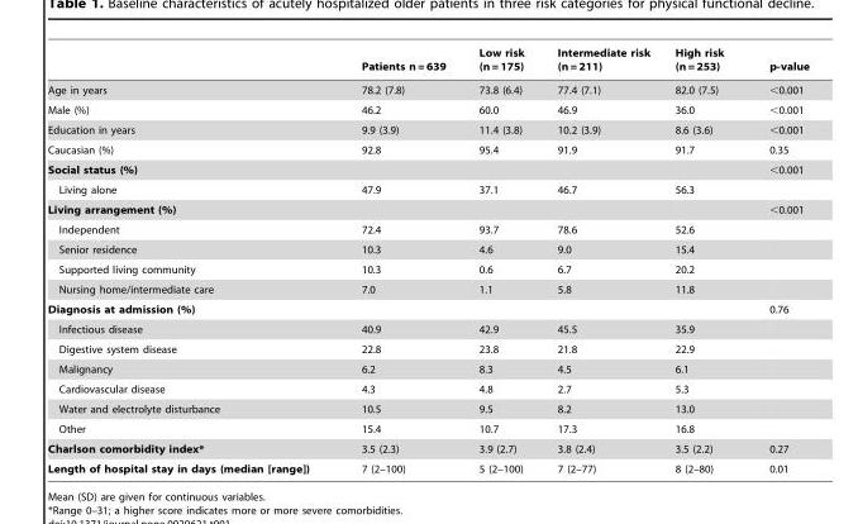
<table><thead><tr><td></td><td>Patients n = 639</td><td>Low risk (n = 175)</td><td>Intermediate risk (n = 211)</td><td>High risk (n = 253)</td><td>p-value</td></tr></thead><tbody><tr><td>Age in years</td><td>78.2 (7.8)</td><td>73.8 (6.4)</td><td>77.4 (7.1)</td><td>82.0 (7.5)</td><td>&lt;0.001</td></tr><tr><td>Male (%)</td><td>46.2</td><td>60.0</td><td>46.9</td><td>36.0</td><td>&lt;0.001</td></tr><tr><td>Education in years</td><td>9.9 (3.9)</td><td>11.4 (3.8)</td><td>10.2 (3.9)</td><td>8.6 (3.6)</td><td>&lt;0.001</td></tr><tr><td>Caucasian (%)</td><td>92.8</td><td>95.4</td><td>91.9</td><td>91.7</td><td>0.35</td></tr><tr><td>Social status (%)</td><td></td><td></td><td></td><td></td><td>&lt;0.001</td></tr><tr><td>Living alone</td><td>47.9</td><td>37.1</td><td>46.7</td><td>56.3</td><td></td></tr><tr><td>Living arrangement (%)</td><td></td><td></td><td></td><td></td><td>&lt;0.001</td></tr><tr><td>Independent</td><td>72.4</td><td>93.7</td><td>78.6</td><td>52.6</td><td></td></tr><tr><td>Senior residence</td><td>10.3</td><td>4.6</td><td>9.0</td><td>15.4</td><td></td></tr><tr><td>Supported living community</td><td>10.3</td><td>0.6</td><td>6.7</td><td>20.2</td><td></td></tr><tr><td>Nursing home/intermediate care</td><td>7.0</td><td>1.1</td><td>5.8</td><td>11.8</td><td></td></tr><tr><td>Diagnosis at admission (%)</td><td></td><td></td><td></td><td></td><td>0.76</td></tr><tr><td>Infectious disease</td><td>40.9</td><td>42.9</td><td>45.5</td><td>35.9</td><td></td></tr><tr><td>Digestive system disease</td><td>22.8</td><td>23.8</td><td>21.8</td><td>22.9</td><td></td></tr><tr><td>Malignancy</td><td>6.2</td><td>8.3</td><td>4.5</td><td>6.1</td><td></td></tr><tr><td>Cardiovascular disease</td><td>4.3</td><td>4.8</td><td>2.7</td><td>5.3</td><td></td></tr><tr><td>Water and electrolyte disturbance</td><td>10.5</td><td>9.5</td><td>8.2</td><td>13.0</td><td></td></tr><tr><td>Other</td><td>15.4</td><td>10.7</td><td>17.3</td><td>16.8</td><td></td></tr><tr><td>Charlson comorbidity index*</td><td>3.5 (2.3)</td><td>3.9 (2.7)</td><td>3.8 (2.4)</td><td>3.5 (2.2)</td><td>0.27</td></tr><tr><td>Length of hospital stay in days (median [range])</td><td>7 (2–100)</td><td>5 (2–100)</td><td>7 (2–77)</td><td>8 (2–80)</td><td>0.01</td></tr></tbody></table>